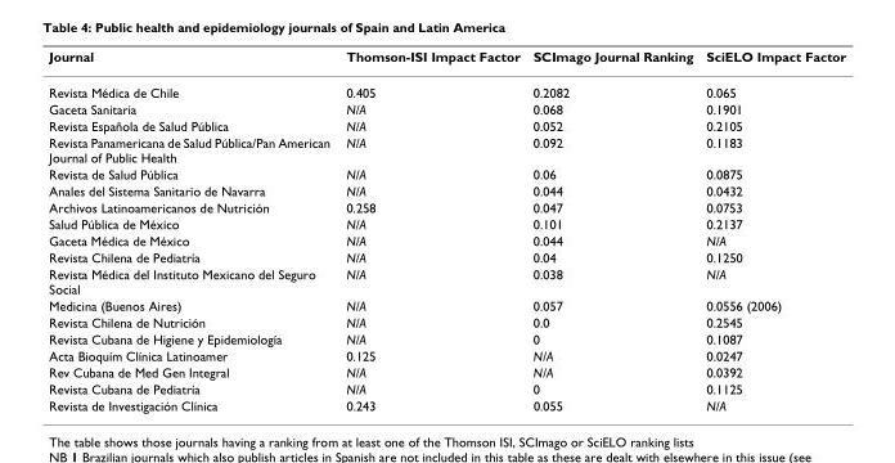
<table><thead><tr><td>Journal</td><td>Thomson-ISI Impact Factor</td><td>SCImago Journal Ranking</td><td>SciELO Impact Factor</td></tr></thead><tbody><tr><td>Revista Médica de Chile</td><td>0.405</td><td>0.2082</td><td>0.065</td></tr><tr><td>Gaceta Sanitaria</td><td>N/A</td><td>0.068</td><td>0.1901</td></tr><tr><td>Revista Española de Salud Pública</td><td>N/A</td><td>0.052</td><td>0.2105</td></tr><tr><td>Revista Panamericana de Salud Pública/Pan American Journal of Public Health</td><td>N/A</td><td>0.092</td><td>0.1183</td></tr><tr><td>Revista de Salud Pública</td><td>N/A</td><td>0.06</td><td>0.0875</td></tr><tr><td>Anales del Sistema Sanitario de Navarra</td><td>N/A</td><td>0.044</td><td>0.0432</td></tr><tr><td>Archivos Latinoamericanos de Nutrición</td><td>0.258</td><td>0.047</td><td>0.0753</td></tr><tr><td>Salud Pública de México</td><td>N/A</td><td>0.101</td><td>0.2137</td></tr><tr><td>Gaceta Médica de México</td><td>N/A</td><td>0.044</td><td>N/A</td></tr><tr><td>Revista Chilena de Pediatría</td><td>N/A</td><td>0.04</td><td>0.1250</td></tr><tr><td>Revista Médica del Instituto Mexicano del Seguro Social</td><td>N/A</td><td>0.038</td><td>N/A</td></tr><tr><td>Medicina (Buenos Aires)</td><td>N/A</td><td>0.057</td><td>0.0556 (2006)</td></tr><tr><td>Revista Chilena de Nutrición</td><td>N/A</td><td>0.0</td><td>0.2545</td></tr><tr><td>Revista Cubana de Higiene y Epidemiología</td><td>N/A</td><td>0</td><td>0.1087</td></tr><tr><td>Acta Bioquím Clínica Latinoamer</td><td>0.125</td><td>N/A</td><td>0.0247</td></tr><tr><td>Rev Cubana de Med Gen Integral</td><td>N/A</td><td>N/A</td><td>0.0392</td></tr><tr><td>Revista Cubana de Pediatría</td><td>N/A</td><td>0</td><td>0.1125</td></tr><tr><td>Revista de Investigación Clínica</td><td>0.243</td><td>0.055</td><td>N/A</td></tr></tbody></table>